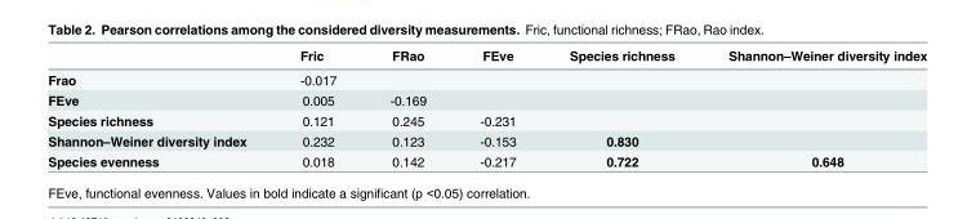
<table><thead><tr><td></td><td>Fric</td><td>FRao</td><td>FEve</td><td>Species richness</td><td>Shannon–Weiner diversity index</td></tr></thead><tbody><tr><td>Frao</td><td>-0.017</td><td></td><td></td><td></td><td></td></tr><tr><td>FEve</td><td>0.005</td><td>-0.169</td><td></td><td></td><td></td></tr><tr><td>Species richness</td><td>0.121</td><td>0.245</td><td>-0.231</td><td></td><td></td></tr><tr><td>Shannon–Weiner diversity index</td><td>0.232</td><td>0.123</td><td>-0.153</td><td>0.830</td><td></td></tr><tr><td>Species evenness</td><td>0.018</td><td>0.142</td><td>-0.217</td><td>0.722</td><td>0.648</td></tr></tbody></table>